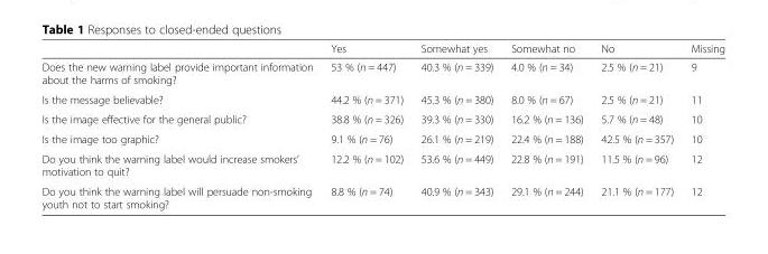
<table><thead><tr><td></td><td>Yes</td><td>Somewhat yes</td><td>Somewhat no</td><td>No</td><td>Missing</td></tr></thead><tbody><tr><td>Does the new warning label provide important information about the harms of smoking?</td><td>53 % (n = 447)</td><td>40.3 % (n = 339)</td><td>4.0 % (n = 34)</td><td>2.5 % (n = 21)</td><td>9</td></tr><tr><td>Is the message believable?</td><td>44.2 % (n = 371)</td><td>45.3 % (n = 380)</td><td>8.0 % (n = 67)</td><td>2.5 % (n = 21)</td><td>11</td></tr><tr><td>Is the image effective for the general public?</td><td>38.8 % (n = 326)</td><td>39.3 % (n = 330)</td><td>16.2 % (n = 136)</td><td>5.7 % (n = 48)</td><td>10</td></tr><tr><td>Is the image too graphic?</td><td>9.1 % (n = 76)</td><td>26.1 % (n = 219)</td><td>22.4 % (n = 188)</td><td>42.5 % (n = 357)</td><td>10</td></tr><tr><td>Do you think the warning label would increase smokers’ motivation to quit?</td><td>12.2 % (n = 102)</td><td>53.6 % (n = 449)</td><td>22.8 % (n = 191)</td><td>11.5 % (n = 96)</td><td>12</td></tr><tr><td>Do you think the warning label will persuade non-smoking youth not to start smoking?</td><td>8.8 % (n = 74)</td><td>40.9 % (n = 343)</td><td>29.1 % (n = 244)</td><td>21.1 % (n = 177)</td><td>12</td></tr></tbody></table>